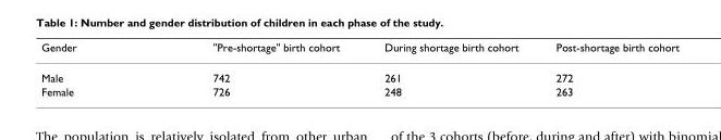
<table><thead><tr><td>Gender</td><td>&quot;Pre-shortage&quot; birth cohort</td><td>During shortage birth cohort</td><td>Post-shortage birth cohort</td></tr></thead><tbody><tr><td>Male</td><td>742</td><td>261</td><td>272</td></tr><tr><td>Female</td><td>726</td><td>248</td><td>263</td></tr></tbody></table>